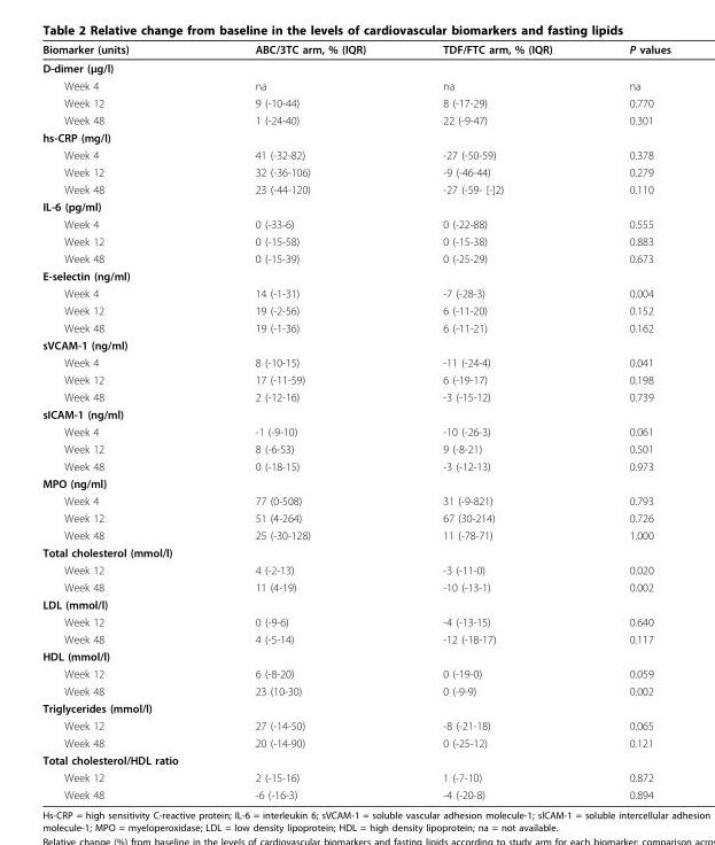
<table><thead><tr><td>Biomarker (units)</td><td>ABC/3TC arm, % (IQR)</td><td>TDF/FTC arm, % (IQR)</td><td>P values</td></tr></thead><tbody><tr><td colspan="4">D-dimer (μg/l)</td></tr><tr><td>Week 4</td><td>na</td><td>na</td><td>na</td></tr><tr><td>Week 12</td><td>9 (-10-44)</td><td>8 (-17-29)</td><td>0.770</td></tr><tr><td>Week 48</td><td>1 (-24-40)</td><td>22 (-9-47)</td><td>0.301</td></tr><tr><td colspan="4">hs-CRP (mg/l)</td></tr><tr><td>Week 4</td><td>41 (-32-82)</td><td>-27 (-50-59)</td><td>0.378</td></tr><tr><td>Week 12</td><td>32 (-36-106)</td><td>-9 (-46-44)</td><td>0.279</td></tr><tr><td>Week 48</td><td>23 (-44-120)</td><td>-27 (-59- [-]2)</td><td>0.110</td></tr><tr><td colspan="4">IL-6 (pg/ml)</td></tr><tr><td>Week 4</td><td>0 (-33-6)</td><td>0 (-22-88)</td><td>0.555</td></tr><tr><td>Week 12</td><td>0 (-15-58)</td><td>0 (-15-38)</td><td>0.883</td></tr><tr><td>Week 48</td><td>0 (-15-39)</td><td>0 (-25-29)</td><td>0.673</td></tr><tr><td colspan="4">E-selectin (ng/ml)</td></tr><tr><td>Week 4</td><td>14 (-1-31)</td><td>-7 (-28-3)</td><td>0.004</td></tr><tr><td>Week 12</td><td>19 (-2-56)</td><td>6 (-11-20)</td><td>0.152</td></tr><tr><td>Week 48</td><td>19 (-1-36)</td><td>6 (-11-21)</td><td>0.162</td></tr><tr><td colspan="4">sVCAM-1 (ng/ml)</td></tr><tr><td>Week 4</td><td>8 (-10-15)</td><td>-11 (-24-4)</td><td>0.041</td></tr><tr><td>Week 12</td><td>17 (-11-59)</td><td>6 (-19-17)</td><td>0.198</td></tr><tr><td>Week 48</td><td>2 (-12-16)</td><td>-3 (-15-12)</td><td>0.739</td></tr><tr><td colspan="4">sICAM-1 (ng/ml)</td></tr><tr><td>Week 4</td><td>-1 (-9-10)</td><td>-10 (-26-3)</td><td>0.061</td></tr><tr><td>Week 12</td><td>8 (-6-53)</td><td>9 (-8-21)</td><td>0.501</td></tr><tr><td>Week 48</td><td>0 (-18-15)</td><td>-3 (-12-13)</td><td>0.973</td></tr><tr><td colspan="4">MPO (ng/ml)</td></tr><tr><td>Week 4</td><td>77 (0-508)</td><td>31 (-9-821)</td><td>0.793</td></tr><tr><td>Week 12</td><td>51 (4-264)</td><td>67 (30-214)</td><td>0.726</td></tr><tr><td>Week 48</td><td>25 (-30-128)</td><td>11 (-78-71)</td><td>1.000</td></tr><tr><td colspan="4">Total cholesterol (mmol/l)</td></tr><tr><td>Week 12</td><td>4 (-2-13)</td><td>-3 (-11-0)</td><td>0.020</td></tr><tr><td>Week 48</td><td>11 (4-19)</td><td>-10 (-13-1)</td><td>0.002</td></tr><tr><td colspan="4">LDL (mmol/l)</td></tr><tr><td>Week 12</td><td>0 (-9-6)</td><td>-4 (-13-15)</td><td>0.640</td></tr><tr><td>Week 48</td><td>4 (-5-14)</td><td>-12 (-18-17)</td><td>0.117</td></tr><tr><td colspan="4">HDL (mmol/l)</td></tr><tr><td>Week 12</td><td>6 (-8-20)</td><td>0 (-19-0)</td><td>0.059</td></tr><tr><td>Week 48</td><td>23 (10-30)</td><td>0 (-9-9)</td><td>0.002</td></tr><tr><td colspan="4">Triglycerides (mmol/l)</td></tr><tr><td>Week 12</td><td>27 (-14-50)</td><td>-8 (-21-18)</td><td>0.065</td></tr><tr><td>Week 48</td><td>20 (-14-90)</td><td>0 (-25-12)</td><td>0.121</td></tr><tr><td colspan="4">Total cholesterol/HDL ratio</td></tr><tr><td>Week 12</td><td>2 (-15-16)</td><td>1 (-7-10)</td><td>0.872</td></tr><tr><td>Week 48</td><td>-6 (-16-3)</td><td>-4 (-20-8)</td><td>0.894</td></tr></tbody></table>